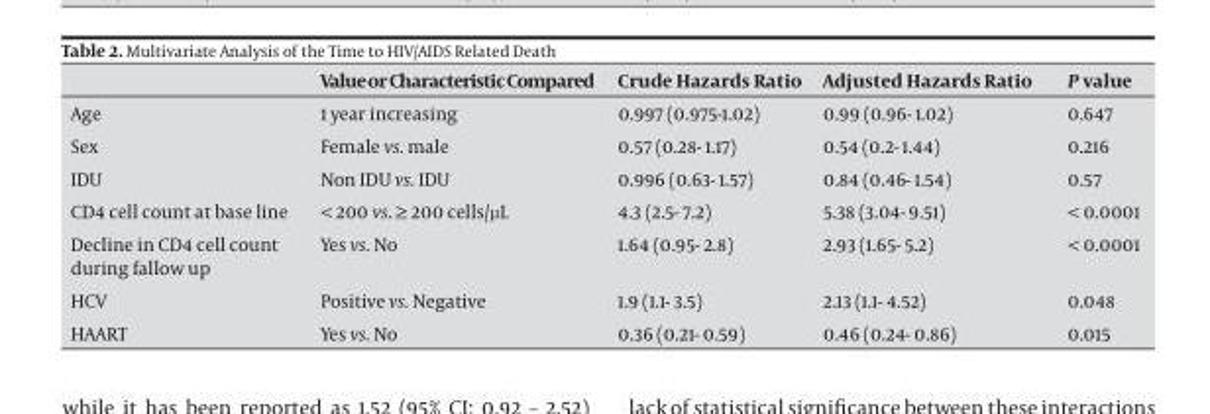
<table><thead><tr><td></td><td>Value or Characteristic Compared</td><td>Crude Hazards Ratio</td><td>Adjusted Hazards Ratio</td><td>P value</td></tr></thead><tbody><tr><td>Age</td><td>1 year increasing</td><td>0.997 (0.975-1.02)</td><td>0.99 (0.96- 1.02)</td><td>0.647</td></tr><tr><td>Sex</td><td>Female vs. male</td><td>0.57 (0.28- 1.17)</td><td>0.54 (0.2- 1.44)</td><td>0.216</td></tr><tr><td>IDU</td><td>Non IDU vs. IDU</td><td>0.996 (0.63- 1.57)</td><td>0.84 (0.46- 1.54)</td><td>0.57</td></tr><tr><td>CD4 cell count at base line</td><td>&lt; 200 vs. ≥ 200 cells/μL</td><td>4.3 (2.5- 7.2)</td><td>5.38 (3.04- 9.51)</td><td>&lt; 0.0001</td></tr><tr><td>Decline in CD4 cell count during fallow up</td><td>Yes vs. No</td><td>1.64 (0.95- 2.8)</td><td>2.93 (1.65- 5.2)</td><td>&lt; 0.0001</td></tr><tr><td>HCV</td><td>Positive vs. Negative</td><td>1.9 (1.1- 3.5)</td><td>2.13 (1.1- 4.52)</td><td>0.048</td></tr><tr><td>HAART</td><td>Yes vs. No</td><td>0.36 (0.21- 0.59)</td><td>0.46 (0.24- 0.86)</td><td>0.015</td></tr></tbody></table>